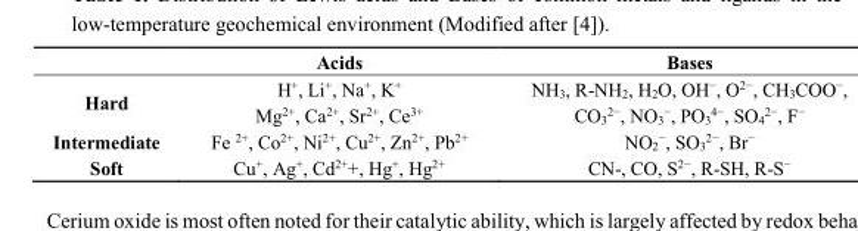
<table><thead><tr><td></td><td>Acids</td><td>Bases</td></tr></thead><tbody><tr><td>Hard</td><td>H<sup>+</sup>, Li<sup>+</sup>, Na<sup>+</sup>, K<sup>+</sup> Mg<sup>2+</sup>, Ca<sup>2+</sup>, Sr<sup>2+</sup>, Ce<sup>3+</sup></td><td>NH3, R-NH2, H2O, OH−, O2−, CO32−, NO3−, PO34−, SO42−, F−</td></tr><tr><td>Intermediate</td><td>Fe <sup>2+</sup>, Co<sup>2+</sup>, Ni<sup>2+</sup>, Cu<sup>2+</sup>, Zn<sup>2+</sup>, Pb<sup>2+</sup></td><td>NO<sub>2</sub><sup>−</sup>, SO<sub>3</sub><sup>2−</sup>, Br<sup>−</sup></td></tr><tr><td>Soft</td><td>Cu<sup>+</sup>, Ag<sup>+</sup>, Cd<sup>2+</sup>+, Hg<sup>+</sup>, Hg<sup>2+</sup></td><td>CN-, CO, S<sup>2−</sup>, R-SH, R-S<sup>−</sup></td></tr></tbody></table>